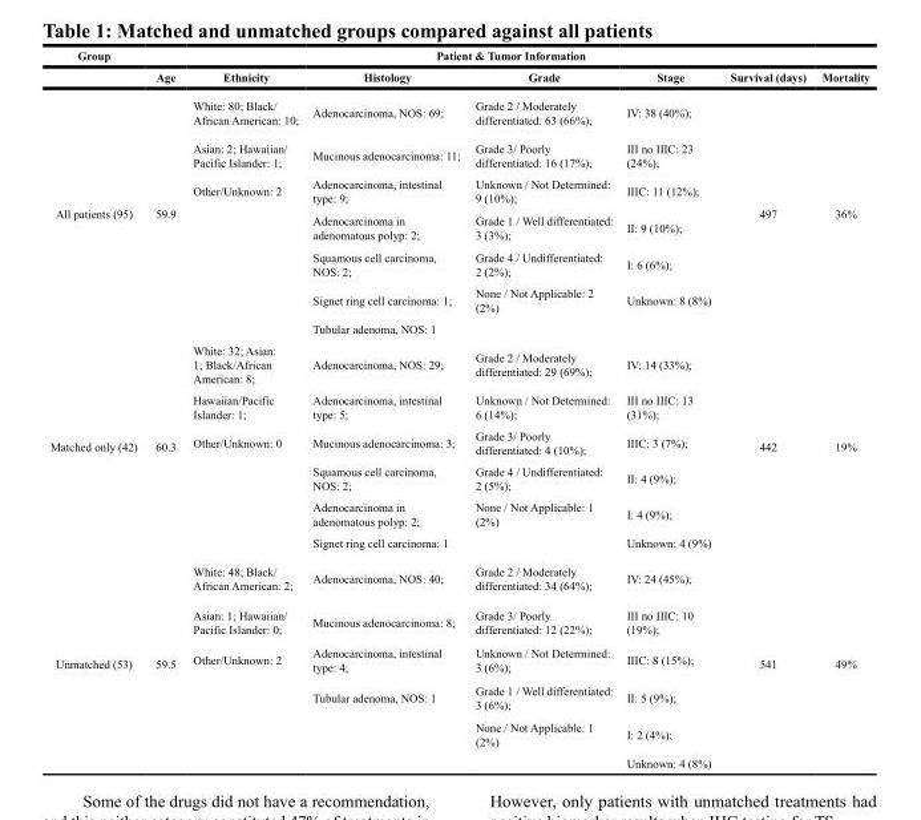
<table><thead><tr><td rowspan="2">Group</td><td colspan="7">Patient &amp; Tumor Information</td></tr><tr><td>Age</td><td>Ethnicity</td><td>Histology</td><td>Grade</td><td>Stage</td><td>Survival (days)</td><td>Mortality</td></tr></thead><tbody><tr><td rowspan="7">All patients (95)</td><td rowspan="7">59.9</td><td>White: 80; Black/ African American: 10;</td><td>Adenocarcinoma, NOS: 69;</td><td>Grade 2 / Moderately differentiated: 63 (66%);</td><td>IV: 38 (40%);</td><td rowspan="7">497</td><td rowspan="7">36%</td></tr><tr><td>Asian: 2; Hawaiian/ Pacific Islander: 1;</td><td>Mucinous adenocarcinoma: 11;</td><td>Grade 3/ Poorly differentiated: 16 (17%);</td><td>III no IIIC: 23 (24%);</td></tr><tr><td>Other/Unknown: 2</td><td>Adenocarcinoma, intestinal type: 9;</td><td>Unknown / Not Determined: 9 (10%);</td><td>IIIC: 11 (12%);</td></tr><tr><td></td><td>Adenocarcinoma in adenomatous polyp: 2;</td><td>Grade 1 / Well differentiated: 3 (3%);</td><td>II: 9 (10%);</td></tr><tr><td></td><td>Squamous cell carcinoma, NOS: 2;</td><td>Grade 4 / Undifferentiated: 2 (2%);</td><td>I: 6 (6%);</td></tr><tr><td></td><td>Signet ring cell carcinoma: 1;</td><td>None / Not Applicable: 2 (2%)</td><td>Unknown: 8 (8%)</td></tr><tr><td></td><td>Tubular adenoma, NOS: 1</td><td></td><td></td></tr><tr><td rowspan="6">Matched only (42)</td><td rowspan="6">60.3</td><td>White: 32; Asian: 1; Black/African American: 8;</td><td>Adenocarcinoma, NOS: 29;</td><td>Grade 2 / Moderately differentiated: 29 (69%);</td><td>IV: 14 (33%);</td><td rowspan="6">442</td><td rowspan="6">19%</td></tr><tr><td>Hawaiian/Pacific Islander: 1;</td><td>Adenocarcinoma, intestinal type: 5;</td><td>Unknown / Not Determined: 6 (14%);</td><td>III no IIIC: 13 (31%);</td></tr><tr><td>Other/Unknown: 0</td><td>Mucinous adenocarcinoma: 3;</td><td>Grade 3/ Poorly differentiated: 4 (10%);</td><td>IIIC: 3 (7%);</td></tr><tr><td></td><td>Squamous cell carcinoma, NOS: 2;</td><td>Grade 4 / Undifferentiated: 2 (5%);</td><td>II: 4 (9%);</td></tr><tr><td></td><td>Adenocarcinoma in adenomatous polyp: 2;</td><td>None / Not Applicable: 1 (2%)</td><td>I: 4 (9%);</td></tr><tr><td></td><td>Signet ring cell carcinoma: 1</td><td></td><td>Unknown: 4 (9%)</td></tr><tr><td rowspan="6">Unmatched (53)</td><td rowspan="6">59.5</td><td>White: 48; Black/ African American: 2;</td><td>Adenocarcinoma, NOS: 40;</td><td>Grade 2 / Moderately differentiated: 34 (64%);</td><td>IV: 24 (45%);</td><td rowspan="6">541</td><td rowspan="6">49%</td></tr><tr><td>Asian: 1; Hawaiian/ Pacific Islander: 0;</td><td>Mucinous adenocarcinoma: 8;</td><td>Grade 3/ Poorly differentiated: 12 (22%);</td><td>III no IIIC: 10 (19%);</td></tr><tr><td>Other/Unknown: 2</td><td>Adenocarcinoma, intestinal type: 4;</td><td>Unknown / Not Determined: 3 (6%);</td><td>IIIC: 8 (15%);</td></tr><tr><td></td><td>Tubular adenoma, NOS: 1</td><td>Grade 1 / Well differentiated: 3 (6%);</td><td>II: 5 (9%);</td></tr><tr><td></td><td></td><td>None / Not Applicable: 1 (2%)</td><td>I: 2 (4%);</td></tr><tr><td></td><td></td><td></td><td>Unknown: 4 (8%)</td></tr></tbody></table>